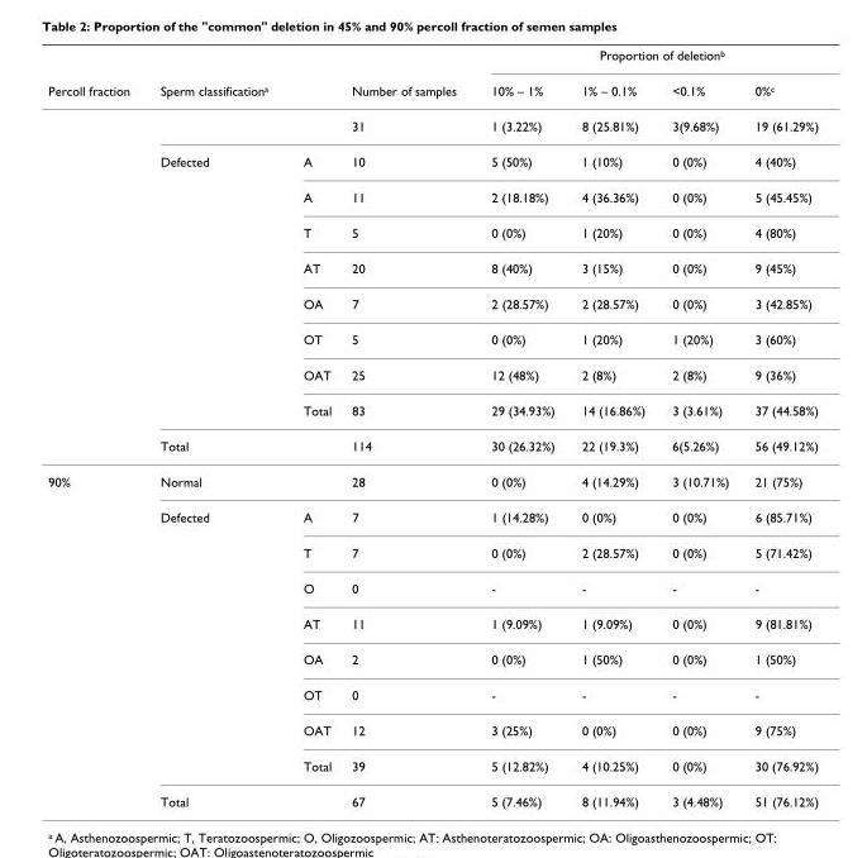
<table><thead><tr><td rowspan="2">Percoll fraction</td><td rowspan="2">Sperm classification<sup>a</sup></td><td rowspan="2"></td><td rowspan="2">Number of samples</td><td colspan="4">Proportion of deletion<sup>b</sup></td></tr><tr><td>10% – 1%</td><td>1% – 0.1%</td><td>&lt;0.1%</td><td>0%<sup>c</sup></td></tr></thead><tbody><tr><td></td><td></td><td></td><td>31</td><td>1 (3.22%)</td><td>8 (25.81%)</td><td>3(9.68%)</td><td>19 (61.29%)</td></tr><tr><td></td><td>Defected</td><td>A</td><td>10</td><td>5 (50%)</td><td>1 (10%)</td><td>0 (0%)</td><td>4 (40%)</td></tr><tr><td></td><td></td><td>A</td><td>11</td><td>2 (18.18%)</td><td>4 (36.36%)</td><td>0 (0%)</td><td>5 (45.45%)</td></tr><tr><td></td><td></td><td>T</td><td>5</td><td>0 (0%)</td><td>1 (20%)</td><td>0 (0%)</td><td>4 (80%)</td></tr><tr><td></td><td></td><td>AT</td><td>20</td><td>8 (40%)</td><td>3 (15%)</td><td>0 (0%)</td><td>9 (45%)</td></tr><tr><td></td><td></td><td>OA</td><td>7</td><td>2 (28.57%)</td><td>2 (28.57%)</td><td>0 (0%)</td><td>3 (42.85%)</td></tr><tr><td></td><td></td><td>OT</td><td>5</td><td>0 (0%)</td><td>1 (20%)</td><td>1 (20%)</td><td>3 (60%)</td></tr><tr><td></td><td></td><td>OAT</td><td>25</td><td>12 (48%)</td><td>2 (8%)</td><td>2 (8%)</td><td>9 (36%)</td></tr><tr><td></td><td></td><td>Total</td><td>83</td><td>29 (34.93%)</td><td>14 (16.86%)</td><td>3 (3.61%)</td><td>37 (44.58%)</td></tr><tr><td></td><td>Total</td><td></td><td>114</td><td>30 (26.32%)</td><td>22 (19.3%)</td><td>6(5.26%)</td><td>56 (49.12%)</td></tr><tr><td rowspan="10">90%</td><td>Normal</td><td></td><td>28</td><td>0 (0%)</td><td>4 (14.29%)</td><td>3 (10.71%)</td><td>21 (75%)</td></tr><tr><td>Defected</td><td>A</td><td>7</td><td>1 (14.28%)</td><td>0 (0%)</td><td>0 (0%)</td><td>6 (85.71%)</td></tr><tr><td></td><td>T</td><td>7</td><td>0 (0%)</td><td>2 (28.57%)</td><td>0 (0%)</td><td>5 (71.42%)</td></tr><tr><td></td><td>O</td><td>0</td><td>-</td><td>-</td><td>-</td><td>-</td></tr><tr><td></td><td>AT</td><td>11</td><td>1 (9.09%)</td><td>1 (9.09%)</td><td>0 (0%)</td><td>9 (81.81%)</td></tr><tr><td></td><td>OA</td><td>2</td><td>0 (0%)</td><td>1 (50%)</td><td>0 (0%)</td><td>1 (50%)</td></tr><tr><td></td><td>OT</td><td>0</td><td>-</td><td>-</td><td>-</td><td>-</td></tr><tr><td></td><td>OAT</td><td>12</td><td>3 (25%)</td><td>0 (0%)</td><td>0 (0%)</td><td>9 (75%)</td></tr><tr><td></td><td>Total</td><td>39</td><td>5 (12.82%)</td><td>4 (10.25%)</td><td>0 (0%)</td><td>30 (76.92%)</td></tr><tr><td>Total</td><td></td><td>67</td><td>5 (7.46%)</td><td>8 (11.94%)</td><td>3 (4.48%)</td><td>51 (76.12%)</td></tr></tbody></table>